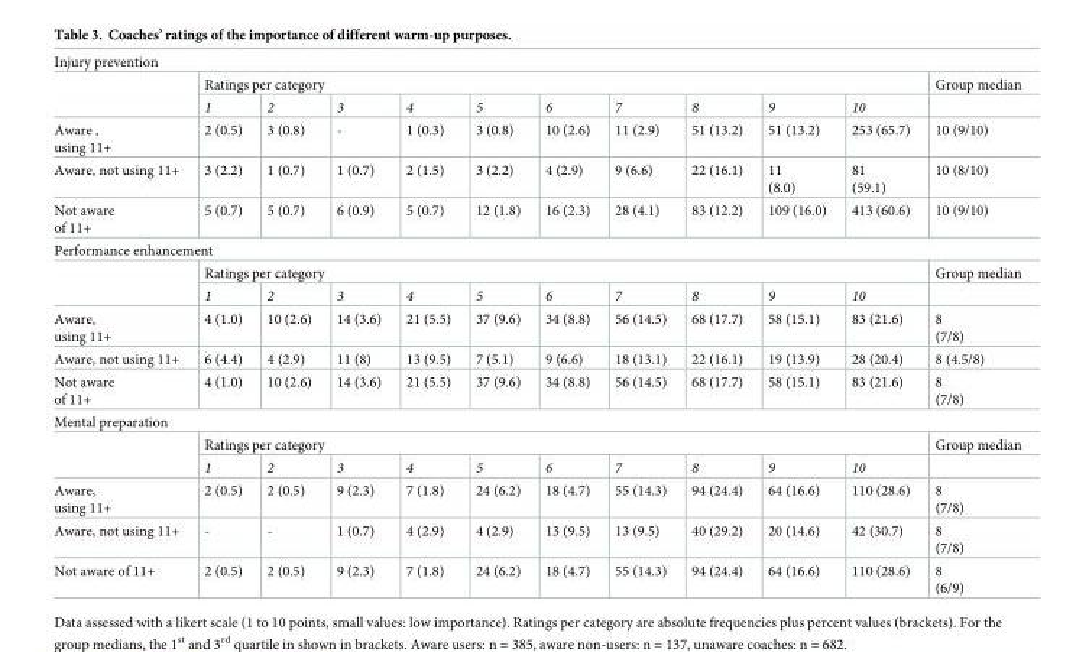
<table><tbody><tr><td colspan="12">Injury prevention</td></tr><tr><td rowspan="2"></td><td colspan="10">Ratings per category</td><td>Group median</td></tr><tr><td>1</td><td>2</td><td>3</td><td>4</td><td>5</td><td>6</td><td>7</td><td>8</td><td>9</td><td>10</td><td></td></tr><tr><td>Aware , using 11+</td><td>2 (0.5)</td><td>3 (0.8)</td><td>-</td><td>1 (0.3)</td><td>3 (0.8)</td><td>10 (2.6)</td><td>11 (2.9)</td><td>51 (13.2)</td><td>51 (13.2)</td><td>253 (65.7)</td><td>10 (9/10)</td></tr><tr><td>Aware, not using 11+</td><td>3 (2.2)</td><td>1 (0.7)</td><td>1 (0.7)</td><td>2 (1.5)</td><td>3 (2.2)</td><td>4 (2.9)</td><td>9 (6.6)</td><td>22 (16.1)</td><td>11 (8.0)</td><td>81 (59.1)</td><td>10 (8/10)</td></tr><tr><td>Not aware of 11+</td><td>5 (0.7)</td><td>5 (0.7)</td><td>6 (0.9)</td><td>5 (0.7)</td><td>12 (1.8)</td><td>16 (2.3)</td><td>28 (4.1)</td><td>83 (12.2)</td><td>109 (16.0)</td><td>413 (60.6)</td><td>10 (9/10)</td></tr><tr><td colspan="12">Performance enhancement</td></tr><tr><td rowspan="2"></td><td colspan="10">Ratings per category</td><td>Group median</td></tr><tr><td>1</td><td>2</td><td>3</td><td>4</td><td>5</td><td>6</td><td>7</td><td>8</td><td>9</td><td>10</td><td></td></tr><tr><td>Aware, using 11+</td><td>4 (1.0)</td><td>10 (2.6)</td><td>14 (3.6)</td><td>21 (5.5)</td><td>37 (9.6)</td><td>34 (8.8)</td><td>56 (14.5)</td><td>68 (17.7)</td><td>58 (15.1)</td><td>83 (21.6)</td><td>8 (7/8)</td></tr><tr><td>Aware, not using 11+</td><td>6 (4.4)</td><td>4 (2.9)</td><td>11 (8)</td><td>13 (9.5)</td><td>7 (5.1)</td><td>9 (6.6)</td><td>18 (13.1)</td><td>22 (16.1)</td><td>19 (13.9)</td><td>28 (20.4)</td><td>8 (4.5/8)</td></tr><tr><td>Not aware of 11+</td><td>4 (1.0)</td><td>10 (2.6)</td><td>14 (3.6)</td><td>21 (5.5)</td><td>37 (9.6)</td><td>34 (8.8)</td><td>56 (14.5)</td><td>68 (17.7)</td><td>58 (15.1)</td><td>83 (21.6)</td><td>8 (7/8)</td></tr><tr><td colspan="12">Mental preparation</td></tr><tr><td rowspan="2"></td><td colspan="10">Ratings per category</td><td>Group median</td></tr><tr><td>1</td><td>2</td><td>3</td><td>4</td><td>5</td><td>6</td><td>7</td><td>8</td><td>9</td><td>10</td><td></td></tr><tr><td>Aware, using 11+</td><td>2 (0.5)</td><td>2 (0.5)</td><td>9 (2.3)</td><td>7 (1.8)</td><td>24 (6.2)</td><td>18 (4.7)</td><td>55 (14.3)</td><td>94 (24.4)</td><td>64 (16.6)</td><td>110 (28.6)</td><td>8 (7/8)</td></tr><tr><td>Aware, not using 11+</td><td>-</td><td>-</td><td>1 (0.7)</td><td>4 (2.9)</td><td>4 (2.9)</td><td>13 (9.5)</td><td>13 (9.5)</td><td>40 (29.2)</td><td>20 (14.6)</td><td>42 (30.7)</td><td>8 (7/8)</td></tr><tr><td>Not aware of 11+</td><td>2 (0.5)</td><td>2 (0.5)</td><td>9 (2.3)</td><td>7 (1.8)</td><td>24 (6.2)</td><td>18 (4.7)</td><td>55 (14.3)</td><td>94 (24.4)</td><td>64 (16.6)</td><td>110 (28.6)</td><td>8 (6/9)</td></tr></tbody></table>